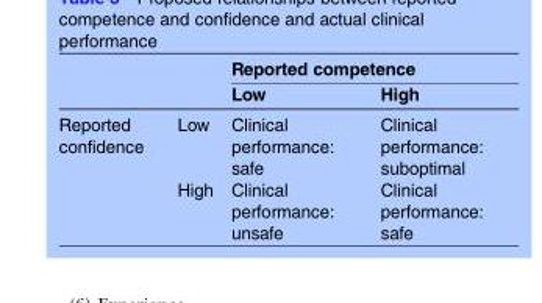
<table><thead><tr><td rowspan="2"></td><td rowspan="2"></td><td colspan="2">Reported competence</td></tr><tr><td>Low</td><td>High</td></tr></thead><tbody><tr><td rowspan="2">Reported confidence</td><td>Low</td><td>Clinical performance: safe</td><td>Clinical performance: suboptimal</td></tr><tr><td>High</td><td>Clinical performance: unsafe</td><td>Clinical performance: safe</td></tr></tbody></table>